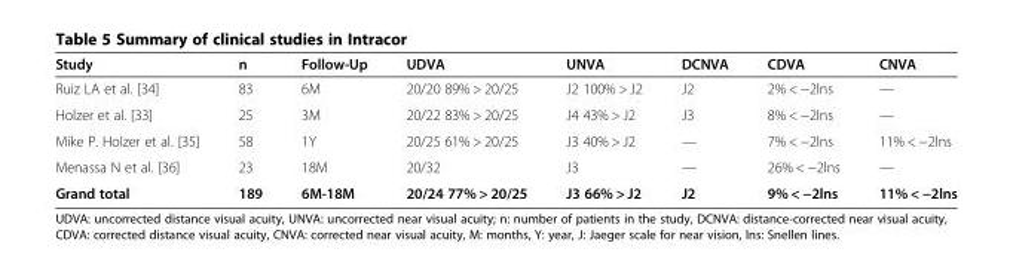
<table><thead><tr><td>Study</td><td>n</td><td>Follow-Up</td><td>UDVA</td><td>UNVA</td><td>DCNVA</td><td>CDVA</td><td>CNVA</td></tr></thead><tbody><tr><td>Ruiz LA et al. [34]</td><td>83</td><td>6M</td><td>20/20 89% &gt; 20/25</td><td>J2 100% &gt; J2</td><td>J2</td><td>2% &lt; −2lns</td><td>—</td></tr><tr><td>Holzer et al. [33]</td><td>25</td><td>3M</td><td>20/22 83% &gt; 20/25</td><td>J4 43% &gt; J2</td><td>J3</td><td>8% &lt; −2lns</td><td>—</td></tr><tr><td>Mike P. Holzer et al. [35]</td><td>58</td><td>1Y</td><td>20/25 61% &gt; 20/25</td><td>J3 40% &gt; J2</td><td>—</td><td>7% &lt; −2lns</td><td>11% &lt; −2lns</td></tr><tr><td>Menassa N et al. [36]</td><td>23</td><td>18M</td><td>20/32</td><td>J3</td><td>—</td><td>26% &lt; −2lns</td><td>—</td></tr><tr><td>Grand total</td><td>189</td><td>6M-18M</td><td>20/24 77% &gt; 20/25</td><td>J3 66% &gt; J2</td><td>J2</td><td>9% &lt; −2lns</td><td>11% &lt; −2lns</td></tr></tbody></table>